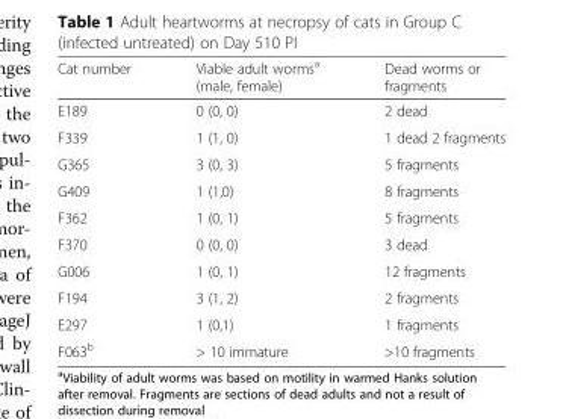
<table><thead><tr><td>Cat number</td><td>Viable adult worms<sup>a</sup> (male, female)</td><td>Dead worms or fragments</td></tr></thead><tbody><tr><td>E189</td><td>0 (0, 0)</td><td>2 dead</td></tr><tr><td>F339</td><td>1 (1, 0)</td><td>1 dead 2 fragments</td></tr><tr><td>G365</td><td>3 (0, 3)</td><td>5 fragments</td></tr><tr><td>G409</td><td>1 (1,0)</td><td>8 fragments</td></tr><tr><td>F362</td><td>1 (0, 1)</td><td>5 fragments</td></tr><tr><td>F370</td><td>0 (0, 0)</td><td>3 dead</td></tr><tr><td>G006</td><td>1 (0, 1)</td><td>12 fragments</td></tr><tr><td>F194</td><td>3 (1, 2)</td><td>2 fragments</td></tr><tr><td>E297</td><td>1 (0,1)</td><td>1 fragments</td></tr><tr><td>F063<sup>b</sup></td><td>&gt; 10 immature</td><td>&gt;10 fragments</td></tr></tbody></table>